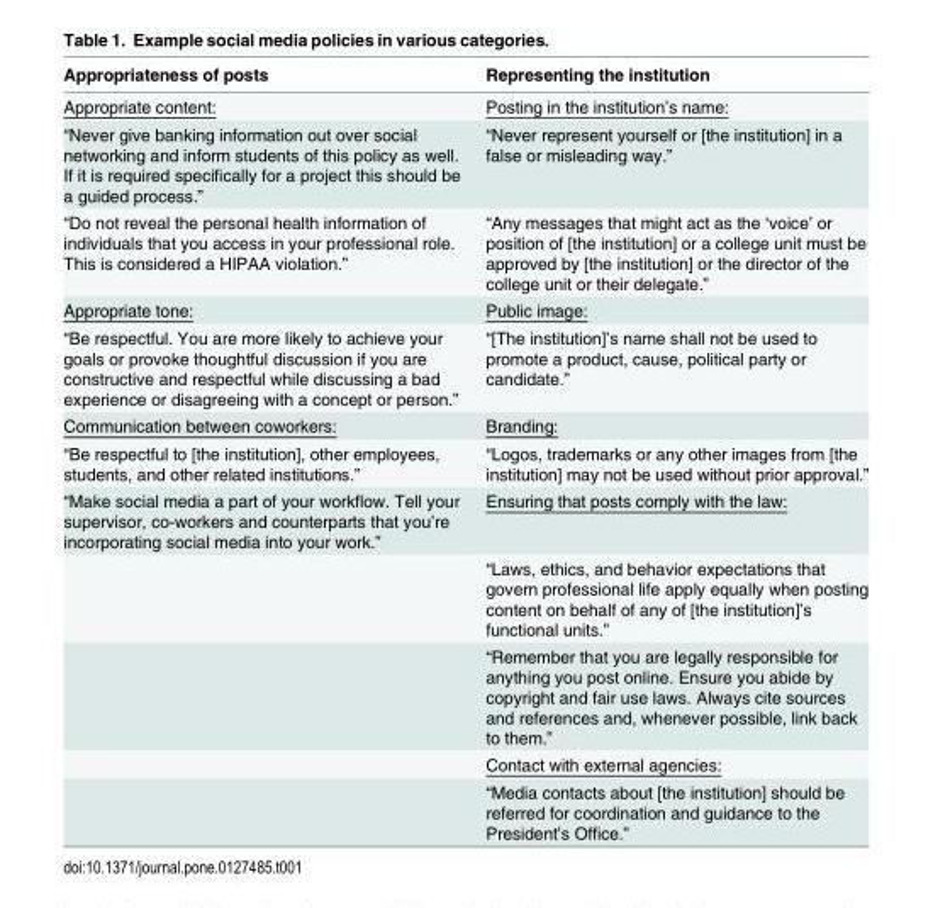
<table><thead><tr><td>Appropriateness of posts</td><td>Representing the institution</td></tr></thead><tbody><tr><td>Appropriate content:</td><td>Posting in the institution’s name:</td></tr><tr><td>“Never give banking information out over social networking and inform students of this policy as well. If it is required specifically for a project this should be a guided process.”</td><td>“Never represent yourself or [the institution] in a false or misleading way.”</td></tr><tr><td>“Do not reveal the personal health information of individuals that you access in your professional role. This is considered a HIPAA violation.”</td><td>“Any messages that might act as the ‘voice’ or position of [the institution] or a college unit must be approved by [the institution] or the director of the college unit or their delegate.”</td></tr><tr><td>Appropriate tone:</td><td>Public image:</td></tr><tr><td>“Be respectful. You are more likely to achieve your goals or provoke thoughtful discussion if you are constructive and respectful while discussing a bad experience or disagreeing with a concept or person.”</td><td>“[The institution]’s name shall not be used to promote a product, cause, political party or candidate.”</td></tr><tr><td>Communication between coworkers:</td><td>Branding:</td></tr><tr><td>“Be respectful to [the institution], other employees, students, and other related institutions.”</td><td>“Logos, trademarks or any other images from [the institution] may not be used without prior approval.”</td></tr><tr><td rowspan="5">“Make social media a part of your workflow. Tell your supervisor, co-workers and counterparts that you’re incorporating social media into your work.”</td><td>Ensuring that posts comply with the law:</td></tr><tr><td>“Laws, ethics, and behavior expectations that govern professional life apply equally when posting content on behalf of any of [the institution]’s functional units.”</td></tr><tr><td>“Remember that you are legally responsible for anything you post online. Ensure you abide by copyright and fair use laws. Always cite sources and references and, whenever possible, link back to them.”</td></tr><tr><td>Contact with external agencies:</td></tr><tr><td>“Media contacts about [the institution] should be referred for coordination and guidance to the President’s Office.”</td></tr></tbody></table>